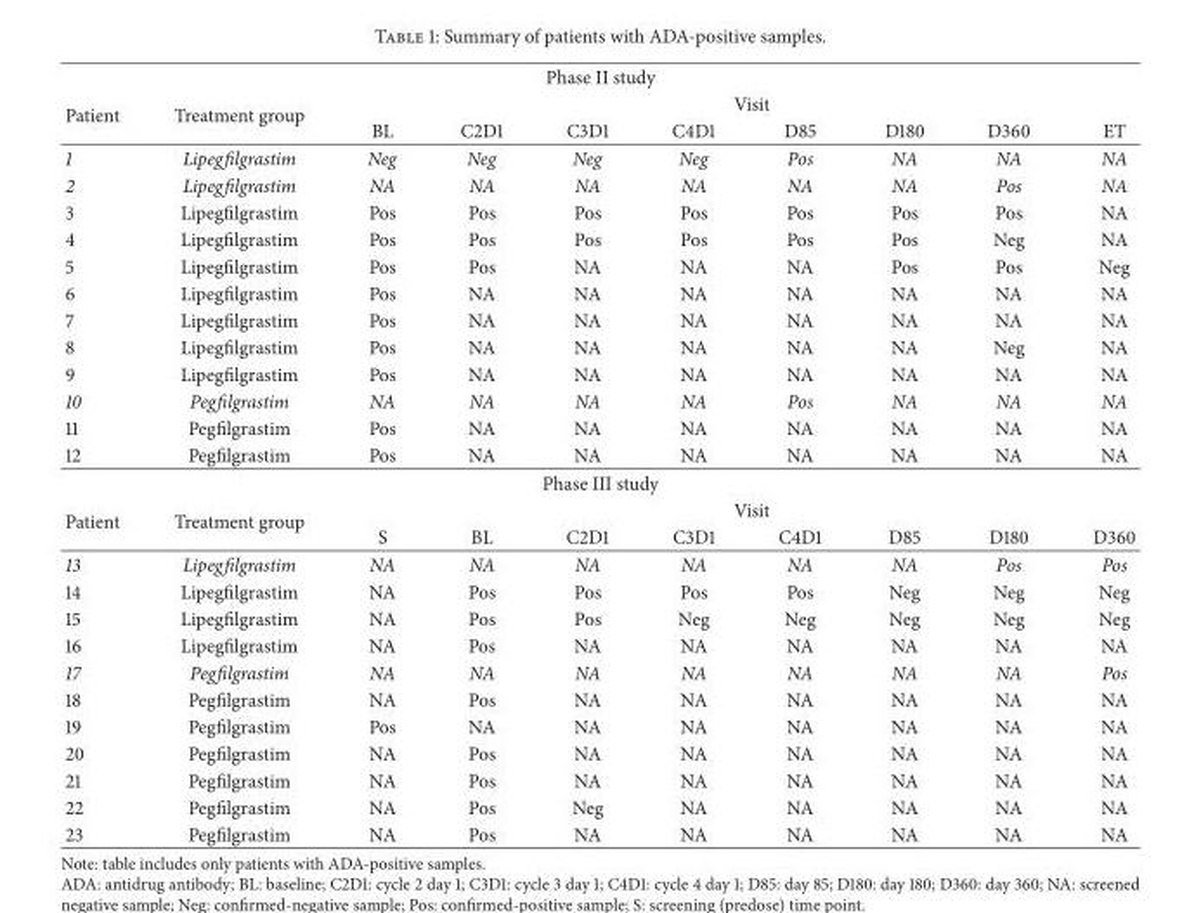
<table><thead><tr><td colspan="10">Phase II study</td></tr><tr><td rowspan="2">Patient</td><td rowspan="2">Treatment group</td><td colspan="8">Visit</td></tr><tr><td>BL</td><td>C2D1</td><td>C3D1</td><td>C4D1</td><td>D85</td><td>D180</td><td>D360</td><td>ET</td></tr></thead><tbody><tr><td>1</td><td>Lipegfilgrastim</td><td>Neg</td><td>Neg</td><td>Neg</td><td>Neg</td><td>Pos</td><td>NA</td><td>NA</td><td>NA</td></tr><tr><td>2</td><td>Lipegfilgrastim</td><td>NA</td><td>NA</td><td>NA</td><td>NA</td><td>NA</td><td>NA</td><td>Pos</td><td>NA</td></tr><tr><td>3</td><td>Lipegfilgrastim</td><td>Pos</td><td>Pos</td><td>Pos</td><td>Pos</td><td>Pos</td><td>Pos</td><td>Pos</td><td>NA</td></tr><tr><td>4</td><td>Lipegfilgrastim</td><td>Pos</td><td>Pos</td><td>Pos</td><td>Pos</td><td>Pos</td><td>Pos</td><td>Neg</td><td>NA</td></tr><tr><td>5</td><td>Lipegfilgrastim</td><td>Pos</td><td>Pos</td><td>NA</td><td>NA</td><td>NA</td><td>Pos</td><td>Pos</td><td>Neg</td></tr><tr><td>6</td><td>Lipegfilgrastim</td><td>Pos</td><td>NA</td><td>NA</td><td>NA</td><td>NA</td><td>NA</td><td>NA</td><td>NA</td></tr><tr><td>7</td><td>Lipegfilgrastim</td><td>Pos</td><td>NA</td><td>NA</td><td>NA</td><td>NA</td><td>NA</td><td>NA</td><td>NA</td></tr><tr><td>8</td><td>Lipegfilgrastim</td><td>Pos</td><td>NA</td><td>NA</td><td>NA</td><td>NA</td><td>NA</td><td>Neg</td><td>NA</td></tr><tr><td>9</td><td>Lipegfilgrastim</td><td>Pos</td><td>NA</td><td>NA</td><td>NA</td><td>NA</td><td>NA</td><td>NA</td><td>NA</td></tr><tr><td>10</td><td>Pegfilgrastim</td><td>NA</td><td>NA</td><td>NA</td><td>NA</td><td>Pos</td><td>NA</td><td>NA</td><td>NA</td></tr><tr><td>11</td><td>Pegfilgrastim</td><td>Pos</td><td>NA</td><td>NA</td><td>NA</td><td>NA</td><td>NA</td><td>NA</td><td>NA</td></tr><tr><td>12</td><td>Pegfilgrastim</td><td>Pos</td><td>NA</td><td>NA</td><td>NA</td><td>NA</td><td>NA</td><td>NA</td><td>NA</td></tr><tr><td colspan="10">Phase III study</td></tr><tr><td rowspan="2">Patient</td><td rowspan="2">Treatment group</td><td colspan="8">Visit</td></tr><tr><td>S</td><td>BL</td><td>C2D1</td><td>C3D1</td><td>C4D1</td><td>D85</td><td>D180</td><td>D360</td></tr><tr><td>13</td><td>Lipegfilgrastim</td><td>NA</td><td>NA</td><td>NA</td><td>NA</td><td>NA</td><td>NA</td><td>Pos</td><td>Pos</td></tr><tr><td>14</td><td>Lipegfilgrastim</td><td>NA</td><td>Pos</td><td>Pos</td><td>Pos</td><td>Pos</td><td>Neg</td><td>Neg</td><td>Neg</td></tr><tr><td>15</td><td>Lipegfilgrastim</td><td>NA</td><td>Pos</td><td>Pos</td><td>Neg</td><td>Neg</td><td>Neg</td><td>Neg</td><td>Neg</td></tr><tr><td>16</td><td>Lipegfilgrastim</td><td>NA</td><td>Pos</td><td>NA</td><td>NA</td><td>NA</td><td>NA</td><td>NA</td><td>NA</td></tr><tr><td>17</td><td>Pegfilgrastim</td><td>NA</td><td>NA</td><td>NA</td><td>NA</td><td>NA</td><td>NA</td><td>NA</td><td>Pos</td></tr><tr><td>18</td><td>Pegfilgrastim</td><td>NA</td><td>Pos</td><td>NA</td><td>NA</td><td>NA</td><td>NA</td><td>NA</td><td>NA</td></tr><tr><td>19</td><td>Pegfilgrastim</td><td>Pos</td><td>NA</td><td>NA</td><td>NA</td><td>NA</td><td>NA</td><td>NA</td><td>NA</td></tr><tr><td>20</td><td>Pegfilgrastim</td><td>NA</td><td>Pos</td><td>NA</td><td>NA</td><td>NA</td><td>NA</td><td>NA</td><td>NA</td></tr><tr><td>21</td><td>Pegfilgrastim</td><td>NA</td><td>Pos</td><td>NA</td><td>NA</td><td>NA</td><td>NA</td><td>NA</td><td>NA</td></tr><tr><td>22</td><td>Pegfilgrastim</td><td>NA</td><td>Pos</td><td>Neg</td><td>NA</td><td>NA</td><td>NA</td><td>NA</td><td>NA</td></tr><tr><td>23</td><td>Pegfilgrastim</td><td>NA</td><td>Pos</td><td>NA</td><td>NA</td><td>NA</td><td>NA</td><td>NA</td><td>NA</td></tr></tbody></table>